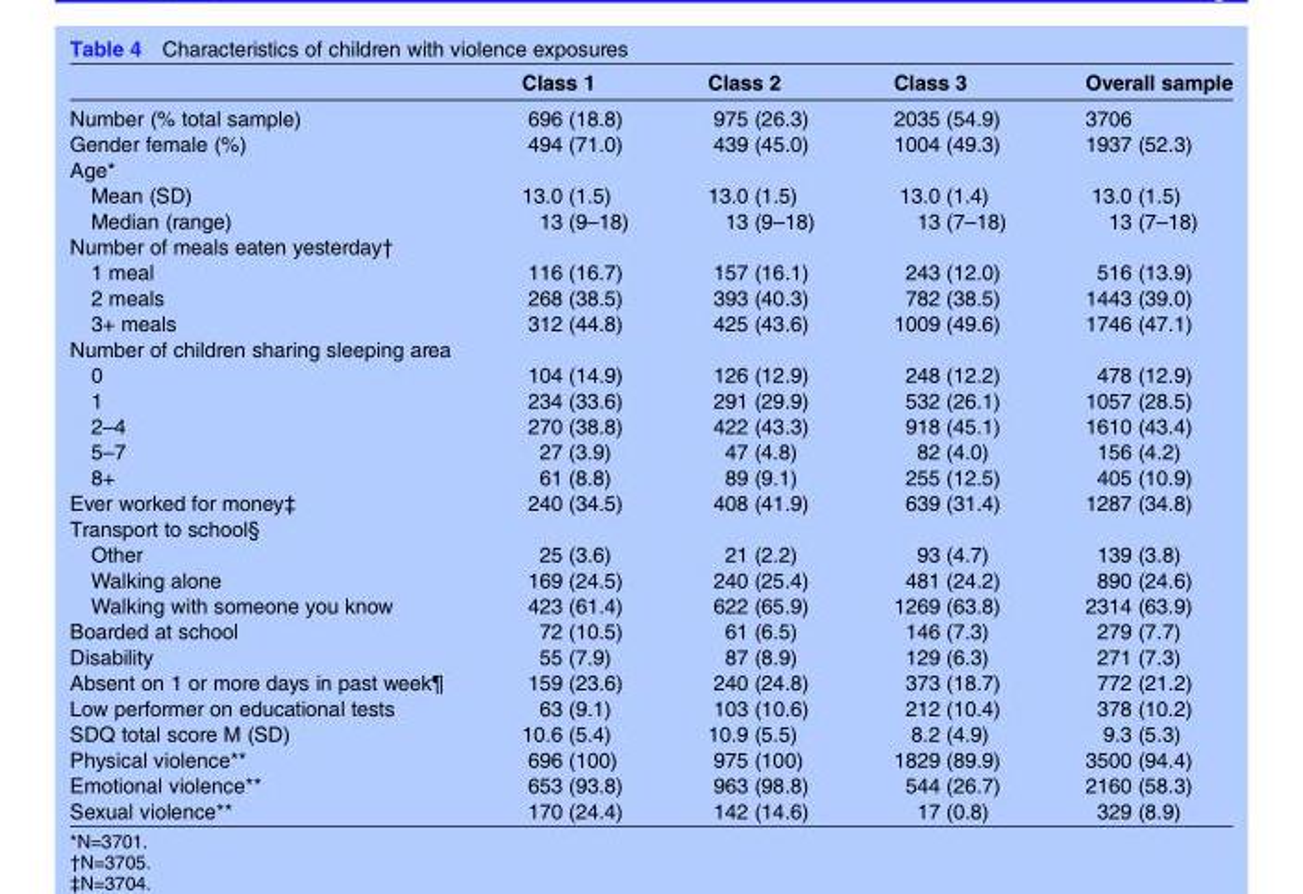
<table><thead><tr><td></td><td>Class 1</td><td>Class 2</td><td>Class 3</td><td>Overall sample</td></tr></thead><tbody><tr><td>Number (% total sample)</td><td>696 (18.8)</td><td>975 (26.3)</td><td>2035 (54.9)</td><td>3706</td></tr><tr><td>Gender female (%)</td><td>494 (71.0)</td><td>439 (45.0)</td><td>1004 (49.3)</td><td>1937 (52.3)</td></tr><tr><td colspan="5">Age*</td></tr><tr><td>Mean (SD)</td><td>13.0 (1.5)</td><td>13.0 (1.5)</td><td>13.0 (1.4)</td><td>13.0 (1.5)</td></tr><tr><td>Median (range)</td><td>13 (9–18)</td><td>13 (9–18)</td><td>13 (7–18)</td><td>13 (7–18)</td></tr><tr><td colspan="5">Number of meals eaten yesterday†</td></tr><tr><td>1 meal</td><td>116 (16.7)</td><td>157 (16.1)</td><td>243 (12.0)</td><td>516 (13.9)</td></tr><tr><td>2 meals</td><td>268 (38.5)</td><td>393 (40.3)</td><td>782 (38.5)</td><td>1443 (39.0)</td></tr><tr><td>3+ meals</td><td>312 (44.8)</td><td>425 (43.6)</td><td>1009 (49.6)</td><td>1746 (47.1)</td></tr><tr><td colspan="5">Number of children sharing sleeping area</td></tr><tr><td>0</td><td>104 (14.9)</td><td>126 (12.9)</td><td>248 (12.2)</td><td>478 (12.9)</td></tr><tr><td>1</td><td>234 (33.6)</td><td>291 (29.9)</td><td>532 (26.1)</td><td>1057 (28.5)</td></tr><tr><td>2–4</td><td>270 (38.8)</td><td>422 (43.3)</td><td>918 (45.1)</td><td>1610 (43.4)</td></tr><tr><td>5–7</td><td>27 (3.9)</td><td>47 (4.8)</td><td>82 (4.0)</td><td>156 (4.2)</td></tr><tr><td>8+</td><td>61 (8.8)</td><td>89 (9.1)</td><td>255 (12.5)</td><td>405 (10.9)</td></tr><tr><td>Ever worked for money‡</td><td>240 (34.5)</td><td>408 (41.9)</td><td>639 (31.4)</td><td>1287 (34.8)</td></tr><tr><td colspan="5">Transport to school§</td></tr><tr><td>Other</td><td>25 (3.6)</td><td>21 (2.2)</td><td>93 (4.7)</td><td>139 (3.8)</td></tr><tr><td>Walking alone</td><td>169 (24.5)</td><td>240 (25.4)</td><td>481 (24.2)</td><td>890 (24.6)</td></tr><tr><td>Walking with someone you know</td><td>423 (61.4)</td><td>622 (65.9)</td><td>1269 (63.8)</td><td>2314 (63.9)</td></tr><tr><td>Boarded at school</td><td>72 (10.5)</td><td>61 (6.5)</td><td>146 (7.3)</td><td>279 (7.7)</td></tr><tr><td>Disability</td><td>55 (7.9)</td><td>87 (8.9)</td><td>129 (6.3)</td><td>271 (7.3)</td></tr><tr><td>Absent on 1 or more days in past week¶</td><td>159 (23.6)</td><td>240 (24.8)</td><td>373 (18.7)</td><td>772 (21.2)</td></tr><tr><td>Low performer on educational tests</td><td>63 (9.1)</td><td>103 (10.6)</td><td>212 (10.4)</td><td>378 (10.2)</td></tr><tr><td>SDQ total score M (SD)</td><td>10.6 (5.4)</td><td>10.9 (5.5)</td><td>8.2 (4.9)</td><td>9.3 (5.3)</td></tr><tr><td>Physical violence**</td><td>696 (100)</td><td>975 (100)</td><td>1829 (89.9)</td><td>3500 (94.4)</td></tr><tr><td>Emotional violence**</td><td>653 (93.8)</td><td>963 (98.8)</td><td>544 (26.7)</td><td>2160 (58.3)</td></tr><tr><td>Sexual violence**</td><td>170 (24.4)</td><td>142 (14.6)</td><td>17 (0.8)</td><td>329 (8.9)</td></tr></tbody></table>